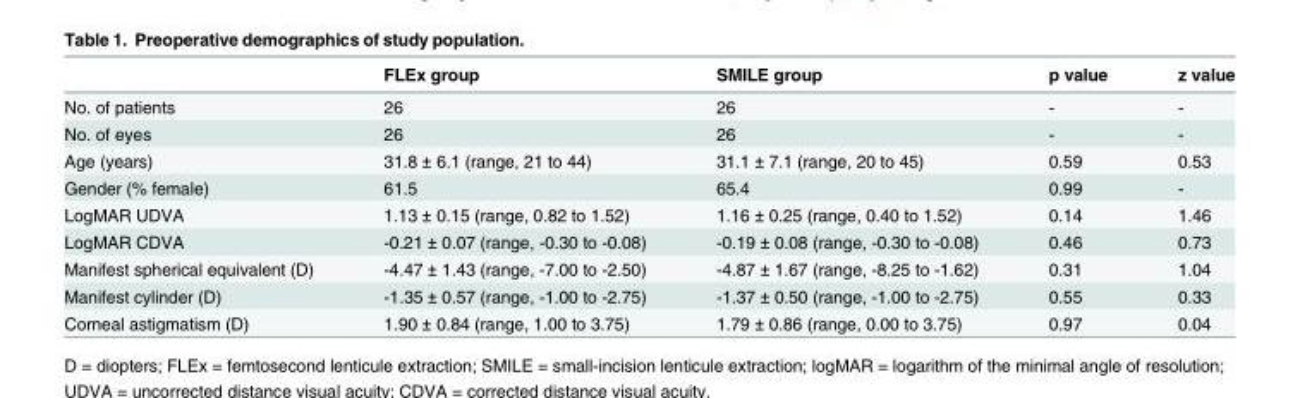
<table><thead><tr><td></td><td>FLEx group</td><td>SMILE group</td><td>p value</td><td>z value</td></tr></thead><tbody><tr><td>No. of patients</td><td>26</td><td>26</td><td>-</td><td>-</td></tr><tr><td>No. of eyes</td><td>26</td><td>26</td><td>-</td><td>-</td></tr><tr><td>Age (years)</td><td>31.8 ± 6.1 (range, 21 to 44)</td><td>31.1 ± 7.1 (range, 20 to 45)</td><td>0.59</td><td>0.53</td></tr><tr><td>Gender (% female)</td><td>61.5</td><td>65.4</td><td>0.99</td><td>-</td></tr><tr><td>LogMAR UDVA</td><td>1.13 ± 0.15 (range, 0.82 to 1.52)</td><td>1.16 ± 0.25 (range, 0.40 to 1.52)</td><td>0.14</td><td>1.46</td></tr><tr><td>LogMAR CDVA</td><td>-0.21 ± 0.07 (range, -0.30 to -0.08)</td><td>-0.19 ± 0.08 (range, -0.30 to -0.08)</td><td>0.46</td><td>0.73</td></tr><tr><td>Manifest spherical equivalent (D)</td><td>-4.47 ± 1.43 (range, -7.00 to -2.50)</td><td>-4.87 ± 1.67 (range, -8.25 to -1.62)</td><td>0.31</td><td>1.04</td></tr><tr><td>Manifest cylinder (D)</td><td>-1.35 ± 0.57 (range, -1.00 to -2.75)</td><td>-1.37 ± 0.50 (range, -1.00 to -2.75)</td><td>0.55</td><td>0.33</td></tr><tr><td>Corneal astigmatism (D)</td><td>1.90 ± 0.84 (range, 1.00 to 3.75)</td><td>1.79 ± 0.86 (range, 0.00 to 3.75)</td><td>0.97</td><td>0.04</td></tr></tbody></table>